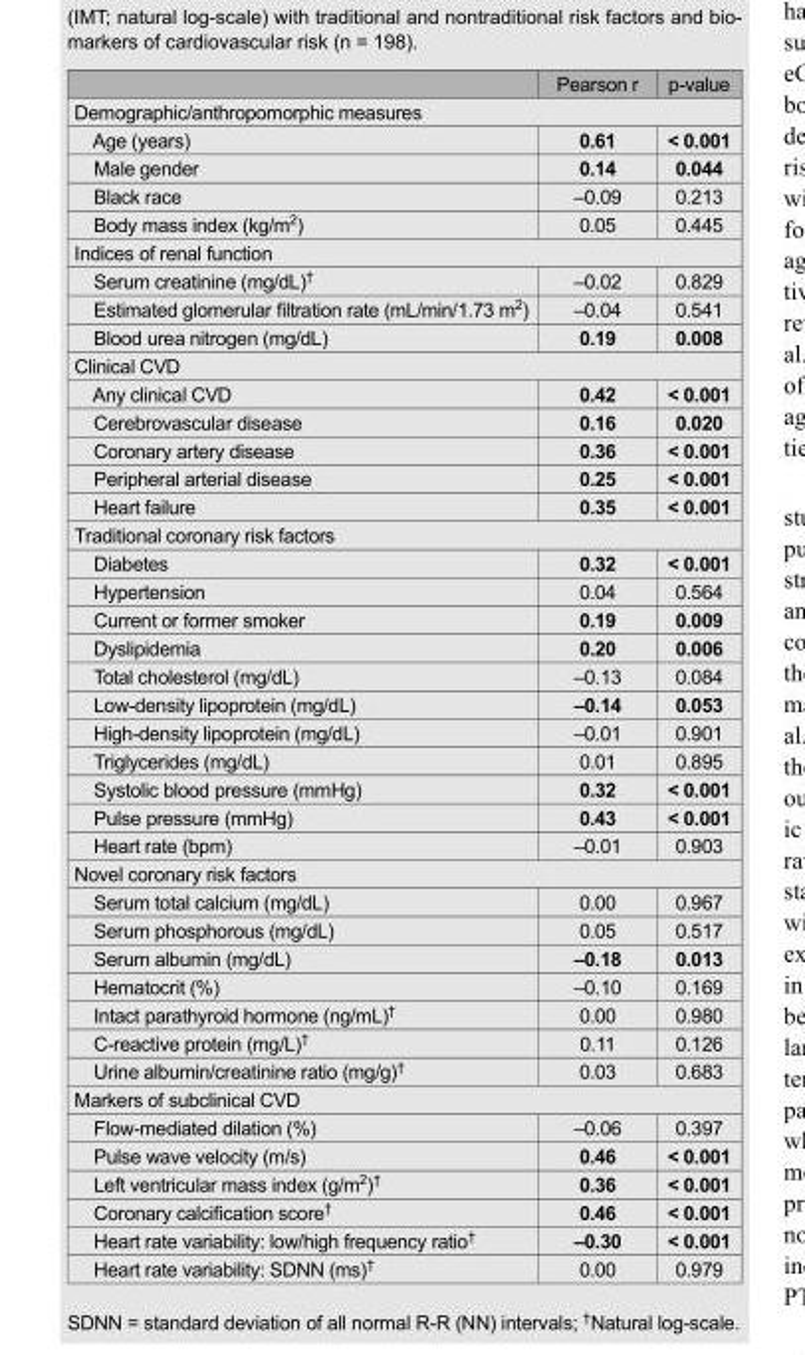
<table><thead><tr><td></td><td>Pearson r</td><td>p-value</td></tr></thead><tbody><tr><td colspan="3">Demographic/anthropomorphic measures</td></tr><tr><td>Age (years)</td><td>0.61</td><td>&lt; 0.001</td></tr><tr><td>Male gender</td><td>0.14</td><td>0.044</td></tr><tr><td>Black race</td><td>–0.09</td><td>0.213</td></tr><tr><td>Body mass index (kg/m<sup>2</sup>)</td><td>0.05</td><td>0.445</td></tr><tr><td colspan="3">Indices of renal function</td></tr><tr><td>Serum creatinine (mg/dL)<sup>†</sup></td><td>–0.02</td><td>0.829</td></tr><tr><td>Estimated glomerular filtration rate (mL/min/1.73 m<sup>2</sup>)</td><td>–0.04</td><td>0.541</td></tr><tr><td>Blood urea nitrogen (mg/dL)</td><td>0.19</td><td>0.008</td></tr><tr><td colspan="3">Clinical CVD</td></tr><tr><td>Any clinical CVD</td><td>0.42</td><td>&lt; 0.001</td></tr><tr><td>Cerebrovascular disease</td><td>0.16</td><td>0.020</td></tr><tr><td>Coronary artery disease</td><td>0.36</td><td>&lt; 0.001</td></tr><tr><td>Peripheral arterial disease</td><td>0.25</td><td>&lt; 0.001</td></tr><tr><td>Heart failure</td><td>0.35</td><td>&lt; 0.001</td></tr><tr><td colspan="3">Traditional coronary risk factors</td></tr><tr><td>Diabetes</td><td>0.32</td><td>&lt; 0.001</td></tr><tr><td>Hypertension</td><td>0.04</td><td>0.564</td></tr><tr><td>Current or former smoker</td><td>0.19</td><td>0.009</td></tr><tr><td>Dyslipidemia</td><td>0.20</td><td>0.006</td></tr><tr><td>Total cholesterol (mg/dL)</td><td>–0.13</td><td>0.084</td></tr><tr><td>Low-density lipoprotein (mg/dL)</td><td>–0.14</td><td>0.053</td></tr><tr><td>High-density lipoprotein (mg/dL)</td><td>–0.01</td><td>0.901</td></tr><tr><td>Triglycerides (mg/dL)</td><td>0.01</td><td>0.895</td></tr><tr><td>Systolic blood pressure (mmHg)</td><td>0.32</td><td>&lt; 0.001</td></tr><tr><td>Pulse pressure (mmHg)</td><td>0.43</td><td>&lt; 0.001</td></tr><tr><td>Heart rate (bpm)</td><td>–0.01</td><td>0.903</td></tr><tr><td colspan="3">Novel coronary risk factors</td></tr><tr><td>Serum total calcium (mg/dL)</td><td>0.00</td><td>0.967</td></tr><tr><td>Serum phosphorous (mg/dL)</td><td>0.05</td><td>0.517</td></tr><tr><td>Serum albumin (mg/dL)</td><td>–0.18</td><td>0.013</td></tr><tr><td>Hematocrit (%)</td><td>–0.10</td><td>0.169</td></tr><tr><td>Intact parathyroid hormone (ng/mL)<sup>†</sup></td><td>0.00</td><td>0.980</td></tr><tr><td>C-reactive protein (mg/L)<sup>†</sup></td><td>0.11</td><td>0.126</td></tr><tr><td>Urine albumin/creatinine ratio (mg/g)<sup>†</sup></td><td>0.03</td><td>0.683</td></tr><tr><td colspan="3">Markers of subclinical CVD</td></tr><tr><td>Flow-mediated dilation (%)</td><td>–0.06</td><td>0.397</td></tr><tr><td>Pulse wave velocity (m/s)</td><td>0.46</td><td>&lt; 0.001</td></tr><tr><td>Left ventricular mass index (g/m<sup>2</sup>)<sup>†</sup></td><td>0.36</td><td>&lt; 0.001</td></tr><tr><td>Coronary calcification score<sup>†</sup></td><td>0.46</td><td>&lt; 0.001</td></tr><tr><td>Heart rate variability: low/high frequency ratio<sup>†</sup></td><td>–0.30</td><td>&lt; 0.001</td></tr><tr><td>Heart rate variability: SDNN (ms)<sup>†</sup></td><td>0.00</td><td>0.979</td></tr></tbody></table>